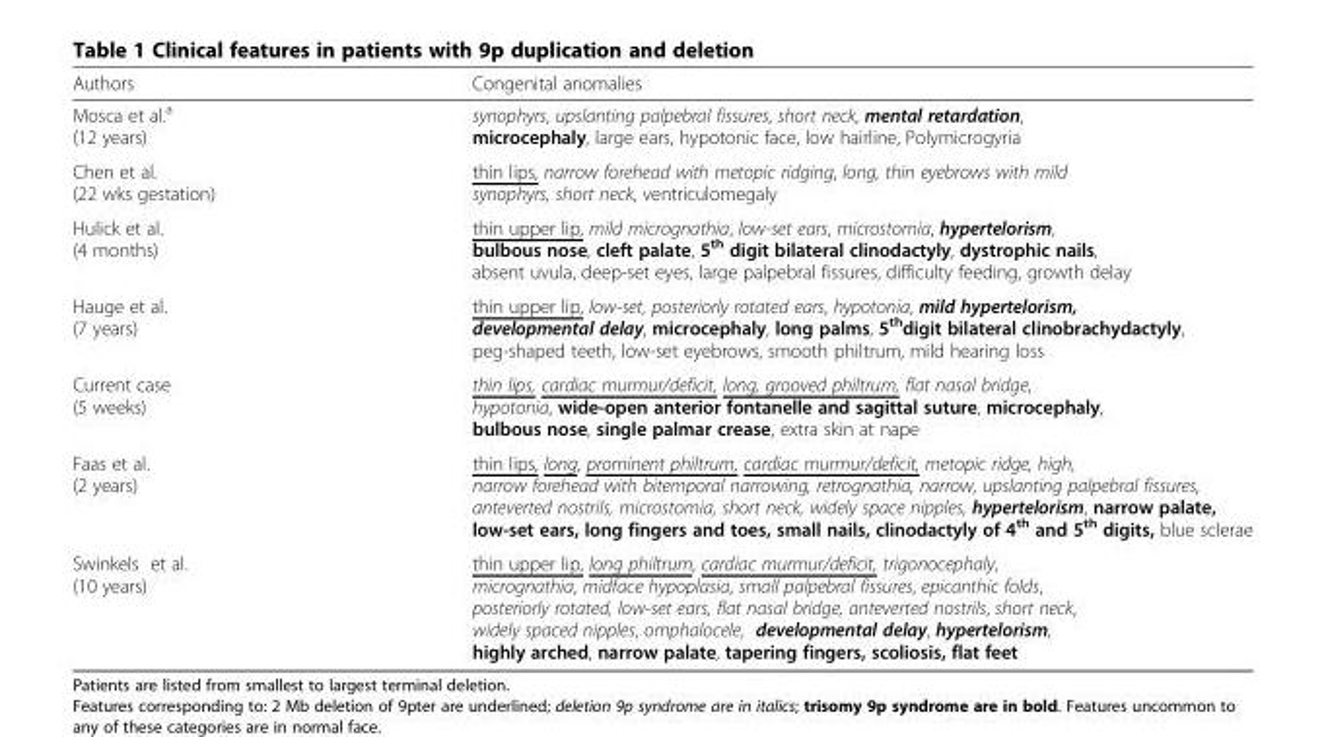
<table><tbody><tr><td>Authors</td><td>Congenital anomalies</td></tr><tr><td>Mosca et al.<sup>a</sup> (12 years)</td><td>synophyrs, upslanting palpebral fissures, short neck, mental retardation, microcephaly, large ears, hypotonic face, low hairline, Polymicrogyria</td></tr><tr><td>Chen et al. (22 wks gestation)</td><td>thin lips, narrow forehead with metopic ridging, long, thin eyebrows with mild synophyrs, short neck, ventriculomegaly</td></tr><tr><td>Hulick et al. (4 months)</td><td>thin upper lip, mild micrognathia, low-set ears, microstomia, hypertelorism, bulbous nose, cleft palate, 5<sup>th</sup> digit bilateral clinodactyly, dystrophic nails, absent uvula, deep-set eyes, large palpebral fissures, difficulty feeding, growth delay</td></tr><tr><td>Hauge et al. (7 years)</td><td>thin upper lip, low-set, posteriorly rotated ears, hypotonia, mild hypertelorism, developmental delay, microcephaly, long palms, 5<sup>th</sup>digit bilateral clinobrachydactyly, peg-shaped teeth, low-set eyebrows, smooth philtrum, mild hearing loss</td></tr><tr><td>Current case (5 weeks)</td><td>thin lips, cardiac murmur/deficit, long, grooved philtrum, flat nasal bridge, hypotonia, wide-open anterior fontanelle and sagittal suture, microcephaly, bulbous nose, single palmar crease, extra skin at nape</td></tr><tr><td>Faas et al. (2 years)</td><td>thin lips, long, prominent philtrum, cardiac murmur/deficit, metopic ridge, high, narrow forehead with bitemporal narrowing, retrognathia, narrow, upslanting palpebral fissures, anteverted nostrils, microstomia, short neck, widely space nipples, hypertelorism, narrow palate, low-set ears, long fingers and toes, small nails, clinodactyly of 4th and 5th digits, blue sclerae</td></tr><tr><td>Swinkels et al. (10 years)</td><td>thin upper lip, long philtrum, cardiac murmur/deficit, trigonocephaly, micrognathia, midface hypoplasia, small palpebral fissures, epicanthic folds, posteriorly rotated, low-set ears, flat nasal bridge, anteverted nostrils, short neck, widely spaced nipples, omphalocele, developmental delay, hypertelorism, highly arched, narrow palate, tapering fingers, scoliosis, flat feet</td></tr></tbody></table>